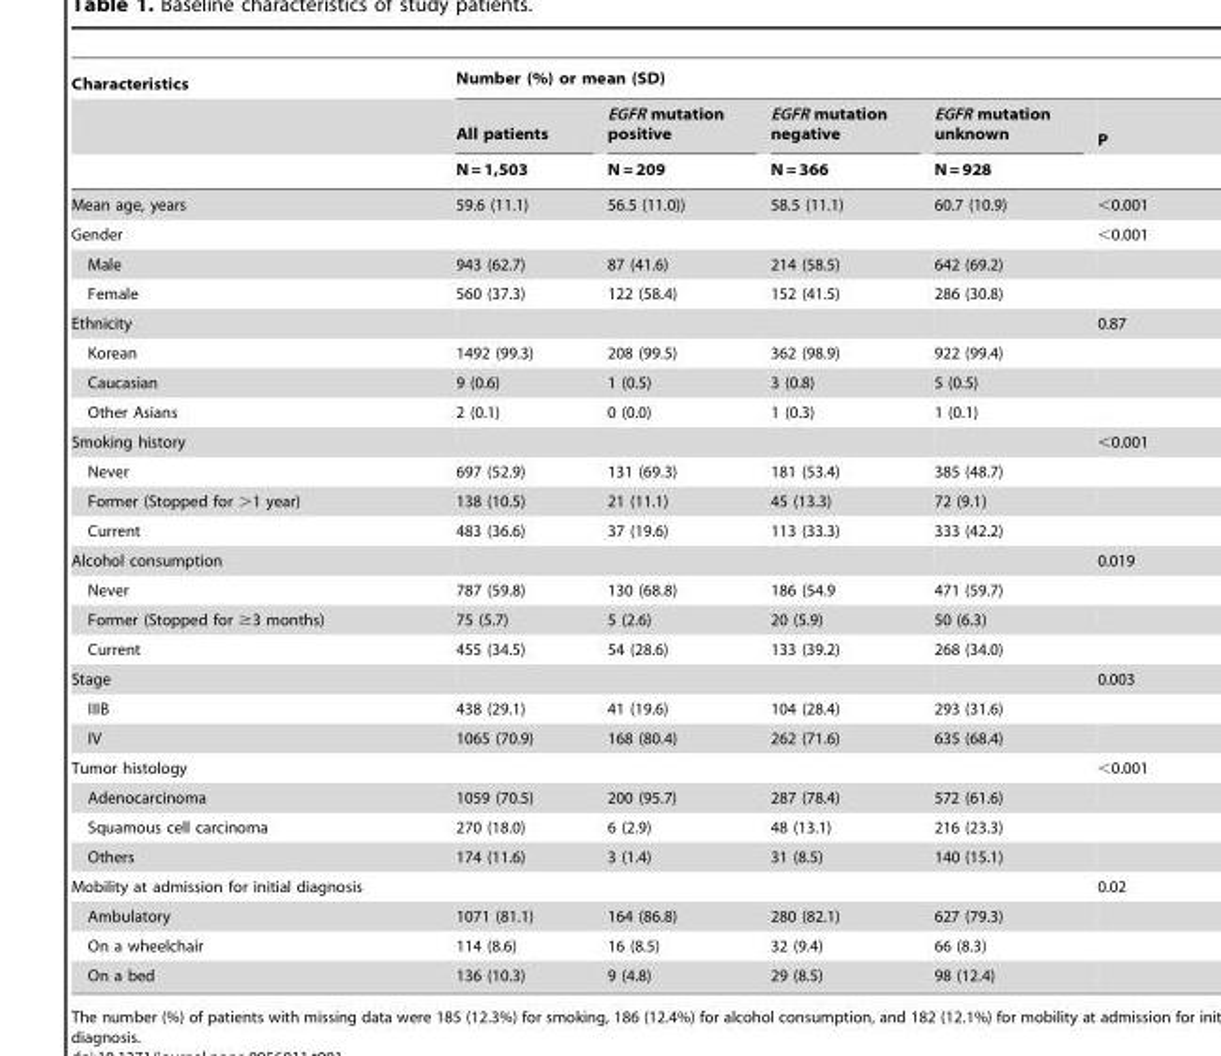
<table><thead><tr><td rowspan="3">Characteristics</td><td colspan="5">Number (%) or mean (SD)</td></tr><tr><td rowspan="2">All patients N = 1,503</td><td rowspan="2">EGFR mutation positive N = 209</td><td rowspan="2">EGFR mutation negative N = 366</td><td rowspan="2">EGFR mutation unknown N = 928</td><td rowspan="2">P</td></tr><tr></tr></thead><tbody><tr><td>Mean age, years</td><td>59.6 (11.1)</td><td>56.5 (11.0))</td><td>58.5 (11.1)</td><td>60.7 (10.9)</td><td>&lt;0.001</td></tr><tr><td>Gender</td><td></td><td></td><td></td><td></td><td>&lt;0.001</td></tr><tr><td>Male</td><td>943 (62.7)</td><td>87 (41.6)</td><td>214 (58.5)</td><td>642 (69.2)</td><td></td></tr><tr><td>Female</td><td>560 (37.3)</td><td>122 (58.4)</td><td>152 (41.5)</td><td>286 (30.8)</td><td></td></tr><tr><td>Ethnicity</td><td></td><td></td><td></td><td></td><td>0.87</td></tr><tr><td>Korean</td><td>1492 (99.3)</td><td>208 (99.5)</td><td>362 (98.9)</td><td>922 (99.4)</td><td></td></tr><tr><td>Caucasian</td><td>9 (0.6)</td><td>1 (0.5)</td><td>3 (0.8)</td><td>5 (0.5)</td><td></td></tr><tr><td>Other Asians</td><td>2 (0.1)</td><td>0 (0.0)</td><td>1 (0.3)</td><td>1 (0.1)</td><td></td></tr><tr><td>Smoking history</td><td></td><td></td><td></td><td></td><td>&lt;0.001</td></tr><tr><td>Never</td><td>697 (52.9)</td><td>131 (69.3)</td><td>181 (53.4)</td><td>385 (48.7)</td><td></td></tr><tr><td>Former (Stopped for &gt;1 year)</td><td>138 (10.5)</td><td>21 (11.1)</td><td>45 (13.3)</td><td>72 (9.1)</td><td></td></tr><tr><td>Current</td><td>483 (36.6)</td><td>37 (19.6)</td><td>113 (33.3)</td><td>333 (42.2)</td><td></td></tr><tr><td>Alcohol consumption</td><td></td><td></td><td></td><td></td><td>0.019</td></tr><tr><td>Never</td><td>787 (59.8)</td><td>130 (68.8)</td><td>186 (54.9</td><td>471 (59.7)</td><td></td></tr><tr><td>Former (Stopped for ≥3 months)</td><td>75 (5.7)</td><td>5 (2.6)</td><td>20 (5.9)</td><td>50 (6.3)</td><td></td></tr><tr><td>Current</td><td>455 (34.5)</td><td>54 (28.6)</td><td>133 (39.2)</td><td>268 (34.0)</td><td></td></tr><tr><td>Stage</td><td></td><td></td><td></td><td></td><td>0.003</td></tr><tr><td>IIIB</td><td>438 (29.1)</td><td>41 (19.6)</td><td>104 (28.4)</td><td>293 (31.6)</td><td></td></tr><tr><td>IV</td><td>1065 (70.9)</td><td>168 (80.4)</td><td>262 (71.6)</td><td>635 (68.4)</td><td></td></tr><tr><td>Tumor histology</td><td></td><td></td><td></td><td></td><td>&lt;0.001</td></tr><tr><td>Adenocarcinoma</td><td>1059 (70.5)</td><td>200 (95.7)</td><td>287 (78.4)</td><td>572 (61.6)</td><td></td></tr><tr><td>Squamous cell carcinoma</td><td>270 (18.0)</td><td>6 (2.9)</td><td>48 (13.1)</td><td>216 (23.3)</td><td></td></tr><tr><td>Others</td><td>174 (11.6)</td><td>3 (1.4)</td><td>31 (8.5)</td><td>140 (15.1)</td><td></td></tr><tr><td>Mobility at admission for initial diagnosis</td><td></td><td></td><td></td><td></td><td>0.02</td></tr><tr><td>Ambulatory</td><td>1071 (81.1)</td><td>164 (86.8)</td><td>280 (82.1)</td><td>627 (79.3)</td><td></td></tr><tr><td>On a wheelchair</td><td>114 (8.6)</td><td>16 (8.5)</td><td>32 (9.4)</td><td>66 (8.3)</td><td></td></tr><tr><td>On a bed</td><td>136 (10.3)</td><td>9 (4.8)</td><td>29 (8.5)</td><td>98 (12.4)</td><td></td></tr></tbody></table>